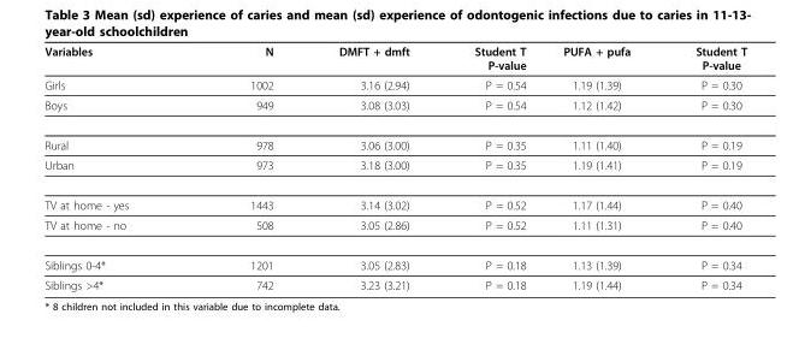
<table><thead><tr><td>Variables</td><td>N</td><td>DMFT + dmft</td><td>Student T P-value</td><td>PUFA + pufa</td><td>Student T P-value</td></tr></thead><tbody><tr><td>Girls</td><td>1002</td><td>3.16 (2.94)</td><td>P = 0.54</td><td>1.19 (1.39)</td><td>P = 0.30</td></tr><tr><td>Boys</td><td>949</td><td>3.08 (3.03)</td><td>P = 0.54</td><td>1.12 (1.42)</td><td>P = 0.30</td></tr><tr><td>Rural</td><td>978</td><td>3.06 (3.00)</td><td>P = 0.35</td><td>1.11 (1.40)</td><td>P = 0.19</td></tr><tr><td>Urban</td><td>973</td><td>3.18 (3.00)</td><td>P = 0.35</td><td>1.19 (1.41)</td><td>P = 0.19</td></tr><tr><td>TV at home - yes</td><td>1443</td><td>3.14 (3.02)</td><td>P = 0.52</td><td>1.17 (1.44)</td><td>P = 0.40</td></tr><tr><td>TV at home - no</td><td>508</td><td>3.05 (2.86)</td><td>P = 0.52</td><td>1.11 (1.31)</td><td>P = 0.40</td></tr><tr><td>Siblings 0-4*</td><td>1201</td><td>3.05 (2.83)</td><td>P = 0.18</td><td>1.13 (1.39)</td><td>P = 0.34</td></tr><tr><td>Siblings &gt;4*</td><td>742</td><td>3.23 (3.21)</td><td>P = 0.18</td><td>1.19 (1.44)</td><td>P = 0.34</td></tr></tbody></table>